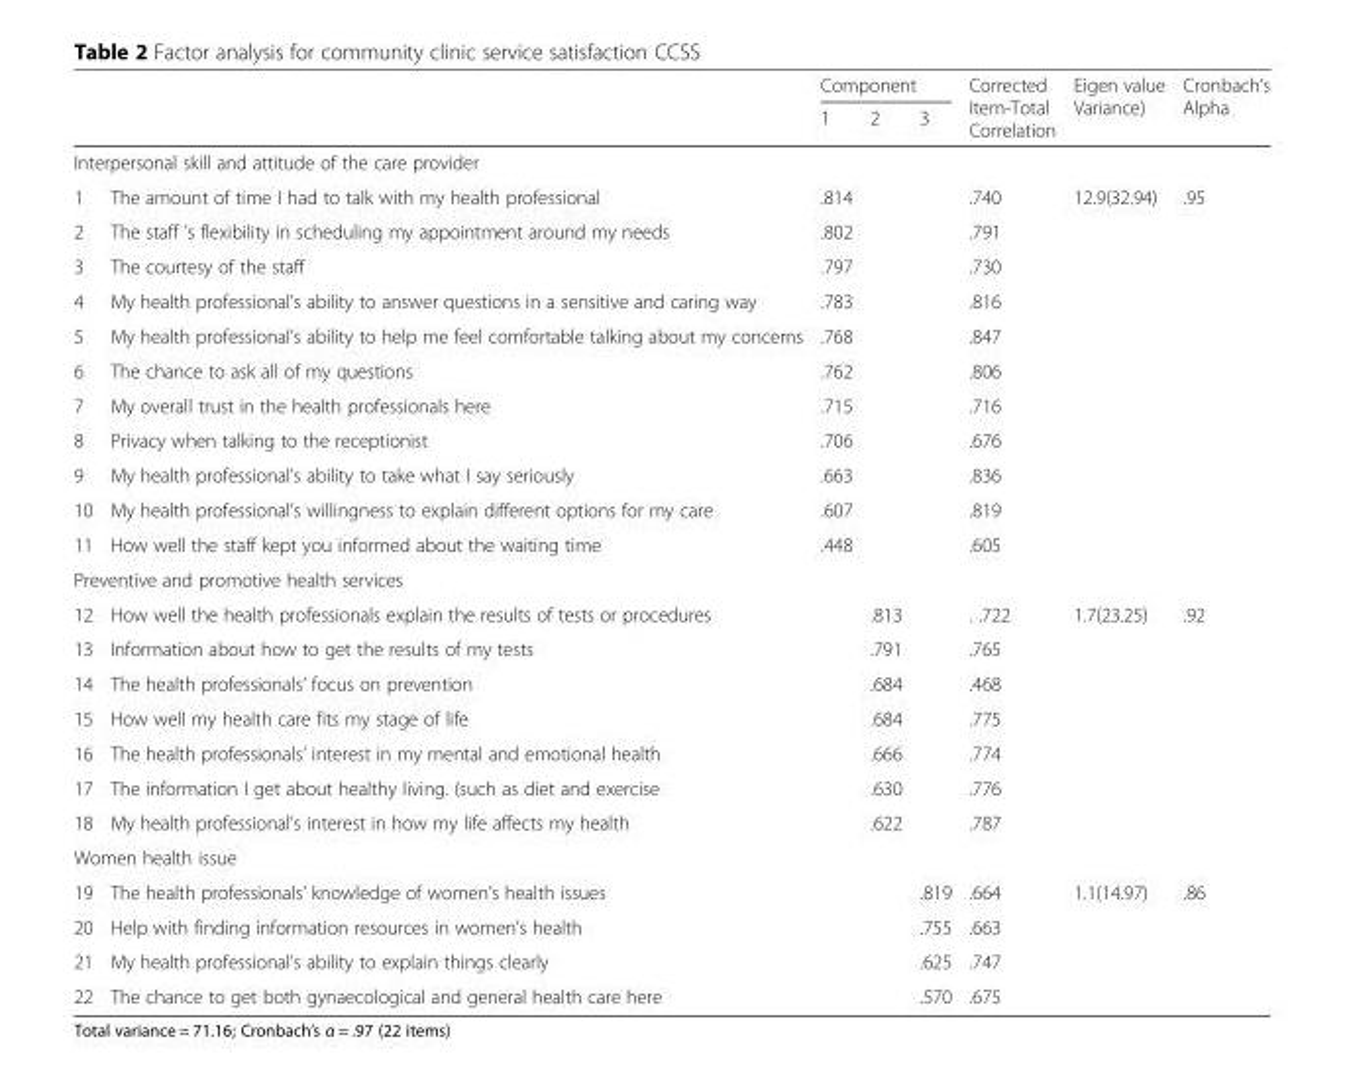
<table><thead><tr><td rowspan="2"></td><td rowspan="2"></td><td colspan="3">Component</td><td rowspan="2">Corrected Item-Total Correlation</td><td rowspan="2">Eigen value Variance)</td><td rowspan="2">Cronbach’s Alpha</td></tr><tr><td>1</td><td>2</td><td>3</td></tr></thead><tbody><tr><td colspan="8">Interpersonal skill and attitude of the care provider</td></tr><tr><td>1</td><td>The amount of time I had to talk with my health professional</td><td>.814</td><td></td><td></td><td>.740</td><td>12.9(32.94)</td><td>.95</td></tr><tr><td>2</td><td>The staff ’s flexibility in scheduling my appointment around my needs</td><td>.802</td><td></td><td></td><td>.791</td><td></td><td></td></tr><tr><td>3</td><td>The courtesy of the staff</td><td>.797</td><td></td><td></td><td>.730</td><td></td><td></td></tr><tr><td>4</td><td>My health professional’s ability to answer questions in a sensitive and caring way</td><td>.783</td><td></td><td></td><td>.816</td><td></td><td></td></tr><tr><td>5</td><td>My health professional’s ability to help me feel comfortable talking about my concerns</td><td>.768</td><td></td><td></td><td>.847</td><td></td><td></td></tr><tr><td>6</td><td>The chance to ask all of my questions</td><td>.762</td><td></td><td></td><td>.806</td><td></td><td></td></tr><tr><td>7</td><td>My overall trust in the health professionals here</td><td>.715</td><td></td><td></td><td>.716</td><td></td><td></td></tr><tr><td>8</td><td>Privacy when talking to the receptionist</td><td>.706</td><td></td><td></td><td>.676</td><td></td><td></td></tr><tr><td>9</td><td>My health professional’s ability to take what I say seriously</td><td>.663</td><td></td><td></td><td>.836</td><td></td><td></td></tr><tr><td>10</td><td>My health professional’s willingness to explain different options for my care</td><td>.607</td><td></td><td></td><td>.819</td><td></td><td></td></tr><tr><td>11</td><td>How well the staff kept you informed about the waiting time</td><td>.448</td><td></td><td></td><td>.605</td><td></td><td></td></tr><tr><td colspan="8">Preventive and promotive health services</td></tr><tr><td>12</td><td>How well the health professionals explain the results of tests or procedures</td><td></td><td>.813</td><td></td><td>. .722</td><td>1.7(23.25)</td><td>.92</td></tr><tr><td>13</td><td>Information about how to get the results of my tests</td><td></td><td>.791</td><td></td><td>.765</td><td></td><td></td></tr><tr><td>14</td><td>The health professionals’ focus on prevention</td><td></td><td>.684</td><td></td><td>.468</td><td></td><td></td></tr><tr><td>15</td><td>How well my health care fits my stage of life</td><td></td><td>.684</td><td></td><td>.775</td><td></td><td></td></tr><tr><td>16</td><td>The health professionals’ interest in my mental and emotional health</td><td></td><td>.666</td><td></td><td>.774</td><td></td><td></td></tr><tr><td>17</td><td>The information I get about healthy living. (such as diet and exercise</td><td></td><td>.630</td><td></td><td>.776</td><td></td><td></td></tr><tr><td>18</td><td>My health professional’s interest in how my life affects my health</td><td></td><td>.622</td><td></td><td>.787</td><td></td><td></td></tr><tr><td colspan="8">Women health issue</td></tr><tr><td>19</td><td>The health professionals’ knowledge of women’s health issues</td><td></td><td></td><td>.819</td><td>.664</td><td>1.1(14.97)</td><td>.86</td></tr><tr><td>20</td><td>Help with finding information resources in women’s health</td><td></td><td></td><td>.755</td><td>.663</td><td></td><td></td></tr><tr><td>21</td><td>My health professional’s ability to explain things clearly</td><td></td><td></td><td>.625</td><td>.747</td><td></td><td></td></tr><tr><td>22</td><td>The chance to get both gynaecological and general health care here</td><td></td><td></td><td>.570</td><td>.675</td><td></td><td></td></tr></tbody></table>